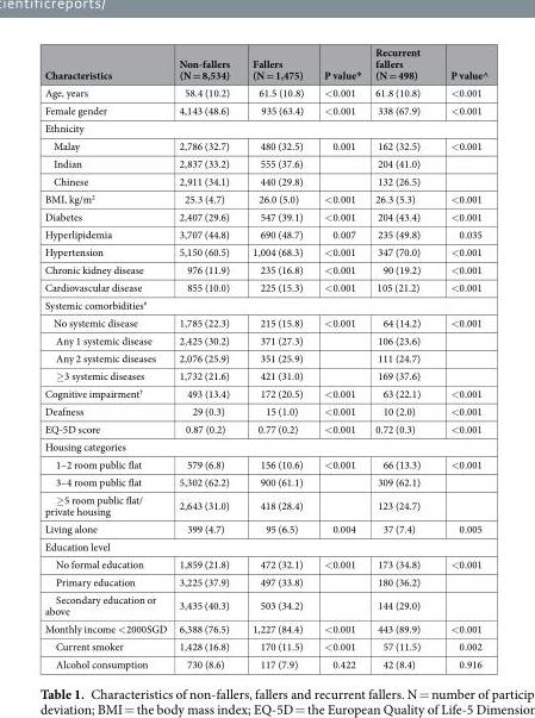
<table><thead><tr><td>Characteristics</td><td>Non-fallers (N = 8,534)</td><td>Fallers (N = 1,475)</td><td>P value*</td><td>Recurrent fallers (N = 498)</td><td>P value^</td></tr></thead><tbody><tr><td>Age, years</td><td>58.4 (10.2)</td><td>61.5 (10.8)</td><td>&lt;0.001</td><td>61.8 (10.8)</td><td>&lt;0.001</td></tr><tr><td>Female gender</td><td>4,143 (48.6)</td><td>935 (63.4)</td><td>&lt;0.001</td><td>338 (67.9)</td><td>&lt;0.001</td></tr><tr><td colspan="6">Ethnicity</td></tr><tr><td>Malay</td><td>2,786 (32.7)</td><td>480 (32.5)</td><td>0.001</td><td>162 (32.5)</td><td>&lt;0.001</td></tr><tr><td>Indian</td><td>2,837 (33.2)</td><td>555 (37.6)</td><td></td><td>204 (41.0)</td><td></td></tr><tr><td>Chinese</td><td>2,911 (34.1)</td><td>440 (29.8)</td><td></td><td>132 (26.5)</td><td></td></tr><tr><td>BMI, kg/m<sup>2</sup></td><td>25.3 (4.7)</td><td>26.0 (5.0)</td><td>&lt;0.001</td><td>26.3 (5.3)</td><td>&lt;0.001</td></tr><tr><td>Diabetes</td><td>2,407 (29.6)</td><td>547 (39.1)</td><td>&lt;0.001</td><td>204 (43.4)</td><td>&lt;0.001</td></tr><tr><td>Hyperlipidemia</td><td>3,707 (44.8)</td><td>690 (48.7)</td><td>0.007</td><td>235 (49.8)</td><td>0.035</td></tr><tr><td>Hypertension</td><td>5,150 (60.5)</td><td>1,004 (68.3)</td><td>&lt;0.001</td><td>347 (70.0)</td><td>&lt;0.001</td></tr><tr><td>Chronic kidney disease</td><td>976 (11.9)</td><td>235 (16.8)</td><td>&lt;0.001</td><td>90 (19.2)</td><td>&lt;0.001</td></tr><tr><td>Cardiovascular disease</td><td>855 (10.0)</td><td>225 (15.3)</td><td>&lt;0.001</td><td>105 (21.2)</td><td>&lt;0.001</td></tr><tr><td colspan="6">Systemic comorbidities<sup>#</sup></td></tr><tr><td>No systemic disease</td><td>1,785 (22.3)</td><td>215 (15.8)</td><td>&lt;0.001</td><td>64 (14.2)</td><td>&lt;0.001</td></tr><tr><td>Any 1 systemic disease</td><td>2,425 (30.2)</td><td>371 (27.3)</td><td></td><td>106 (23.6)</td><td></td></tr><tr><td>Any 2 systemic diseases</td><td>2,076 (25.9)</td><td>351 (25.9)</td><td></td><td>111 (24.7)</td><td></td></tr><tr><td>≥3 systemic diseases</td><td>1,732 (21.6)</td><td>421 (31.0)</td><td></td><td>169 (37.6)</td><td></td></tr><tr><td>Cognitive impairment<sup>†</sup></td><td>493 (13.4)</td><td>172 (20.5)</td><td>&lt;0.001</td><td>63 (22.1)</td><td>&lt;0.001</td></tr><tr><td>Deafness</td><td>29 (0.3)</td><td>15 (1.0)</td><td>&lt;0.001</td><td>10 (2.0)</td><td>&lt;0.001</td></tr><tr><td>EQ-5D score</td><td>0.87 (0.2)</td><td>0.77 (0.2)</td><td>&lt;0.001</td><td>0.72 (0.3)</td><td>&lt;0.001</td></tr><tr><td colspan="6">Housing categories</td></tr><tr><td>1–2 room public flat</td><td>579 (6.8)</td><td>156 (10.6)</td><td>&lt;0.001</td><td>66 (13.3)</td><td>&lt;0.001</td></tr><tr><td>3–4 room public flat</td><td>5,302 (62.2)</td><td>900 (61.1)</td><td></td><td>309 (62.1)</td><td></td></tr><tr><td>≥5 room public flat/ private housing</td><td>2,643 (31.0)</td><td>418 (28.4)</td><td></td><td>123 (24.7)</td><td></td></tr><tr><td>Living alone</td><td>399 (4.7)</td><td>95 (6.5)</td><td>0.004</td><td>37 (7.4)</td><td>0.005</td></tr><tr><td colspan="6">Education level</td></tr><tr><td>No formal education</td><td>1,859 (21.8)</td><td>472 (32.1)</td><td>&lt;0.001</td><td>173 (34.8)</td><td>&lt;0.001</td></tr><tr><td>Primary education</td><td>3,225 (37.9)</td><td>497 (33.8)</td><td></td><td>180 (36.2)</td><td></td></tr><tr><td>Secondary education or above</td><td>3,435 (40.3)</td><td>503 (34.2)</td><td></td><td>144 (29.0)</td><td></td></tr><tr><td>Monthly income &lt;2000SGD</td><td>6,388 (76.5)</td><td>1,227 (84.4)</td><td>&lt;0.001</td><td>443 (89.9)</td><td>&lt;0.001</td></tr><tr><td>Current smoker</td><td>1,428 (16.8)</td><td>170 (11.5)</td><td>&lt;0.001</td><td>57 (11.5)</td><td>0.002</td></tr><tr><td>Alcohol consumption</td><td>730 (8.6)</td><td>117 (7.9)</td><td>0.422</td><td>42 (8.4)</td><td>0.916</td></tr></tbody></table>